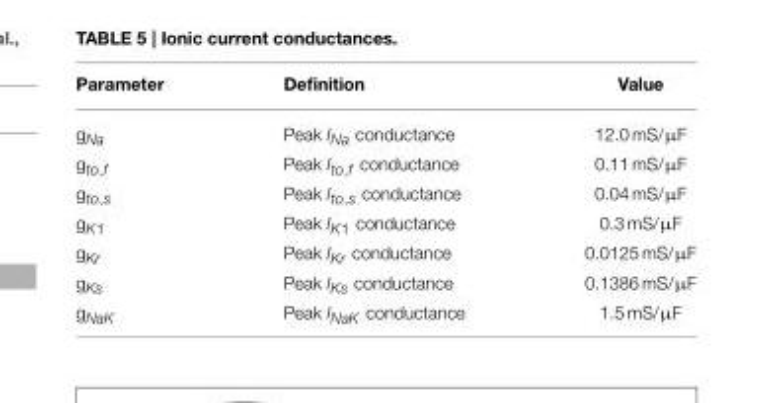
<table><thead><tr><td>Parameter</td><td>Definition</td><td>Value</td></tr></thead><tbody><tr><td>g<sub>Na</sub></td><td>Peak I<sub>Na</sub> conductance</td><td>12.0 mS/µF</td></tr><tr><td>g<sub>to,f</sub></td><td>Peak I<sub>to,f</sub> conductance</td><td>0.11 mS/µF</td></tr><tr><td>g<sub>to,s</sub></td><td>Peak I<sub>to,s</sub> conductance</td><td>0.04 mS/µF</td></tr><tr><td>g<sub>K1</sub></td><td>Peak I<sub>K1</sub> conductance</td><td>0.3 mS/µF</td></tr><tr><td>g<sub>Kr</sub></td><td>Peak I<sub>Kr</sub> conductance</td><td>0.0125 mS/µF</td></tr><tr><td>g<sub>Ks</sub></td><td>Peak I<sub>Ks</sub> conductance</td><td>0.1386 mS/µF</td></tr><tr><td>g<sub>NaK</sub></td><td>Peak I<sub>NaK</sub> conductance</td><td>1.5 mS/µF</td></tr></tbody></table>